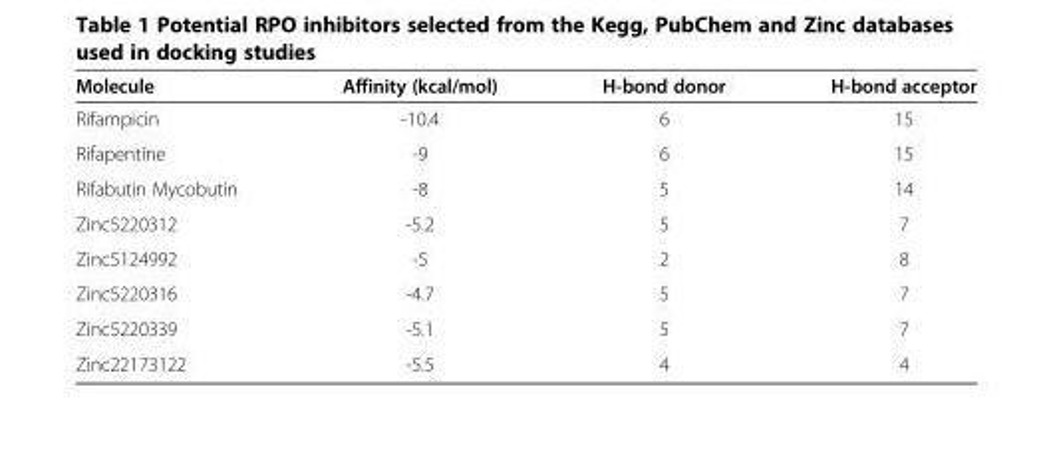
<table><thead><tr><td>Molecule</td><td>Affinity (kcal/mol)</td><td>H-bond donor</td><td>H-bond acceptor</td></tr></thead><tbody><tr><td>Rifampicin</td><td>-10.4</td><td>6</td><td>15</td></tr><tr><td>Rifapentine</td><td>-9</td><td>6</td><td>15</td></tr><tr><td>Rifabutin Mycobutin</td><td>-8</td><td>5</td><td>14</td></tr><tr><td>Zinc5220312</td><td>-5.2</td><td>5</td><td>7</td></tr><tr><td>Zinc5124992</td><td>-5</td><td>2</td><td>8</td></tr><tr><td>Zinc5220316</td><td>-4.7</td><td>5</td><td>7</td></tr><tr><td>Zinc5220339</td><td>-5.1</td><td>5</td><td>7</td></tr><tr><td>Zinc22173122</td><td>-5.5</td><td>4</td><td>4</td></tr></tbody></table>